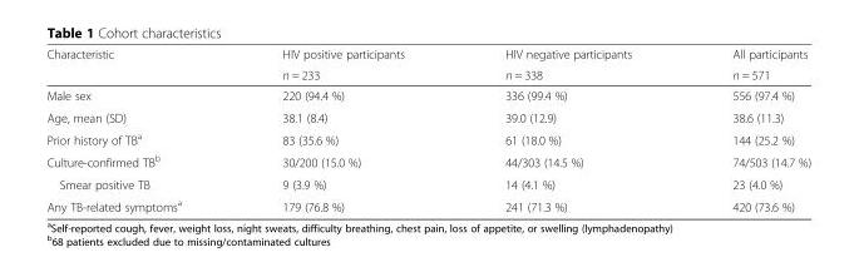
<table><thead><tr><td rowspan="2">Characteristic</td><td rowspan="2">HIV positive participants n = 233</td><td rowspan="2">HIV negative participants n = 338</td><td rowspan="2">All participants n = 571</td></tr><tr></tr></thead><tbody><tr><td>Male sex</td><td>220 (94.4 %)</td><td>336 (99.4 %)</td><td>556 (97.4 %)</td></tr><tr><td>Age, mean (SD)</td><td>38.1 (8.4)</td><td>39.0 (12.9)</td><td>38.6 (11.3)</td></tr><tr><td>Prior history of TB<sup>a</sup></td><td>83 (35.6 %)</td><td>61 (18.0 %)</td><td>144 (25.2 %)</td></tr><tr><td>Culture-confirmed TB<sup>b</sup></td><td>30/200 (15.0 %)</td><td>44/303 (14.5 %)</td><td>74/503 (14.7 %)</td></tr><tr><td>Smear positive TB</td><td>9 (3.9 %)</td><td>14 (4.1 %)</td><td>23 (4.0 %)</td></tr><tr><td>Any TB-related symptoms<sup>a</sup></td><td>179 (76.8 %)</td><td>241 (71.3 %)</td><td>420 (73.6 %)</td></tr></tbody></table>